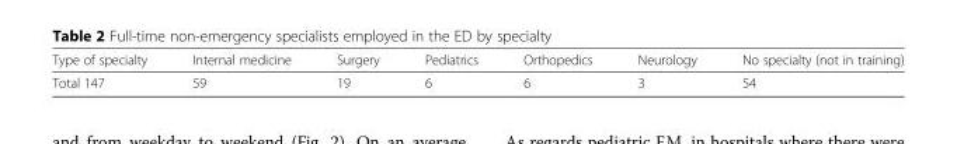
<table><thead><tr><td>Type of specialty</td><td>Internal medicine</td><td>Surgery</td><td>Pediatrics</td><td>Orthopedics</td><td>Neurology</td><td>No specialty (not in training)</td></tr></thead><tbody><tr><td>Total 147</td><td>59</td><td>19</td><td>6</td><td>6</td><td>3</td><td>54</td></tr></tbody></table>